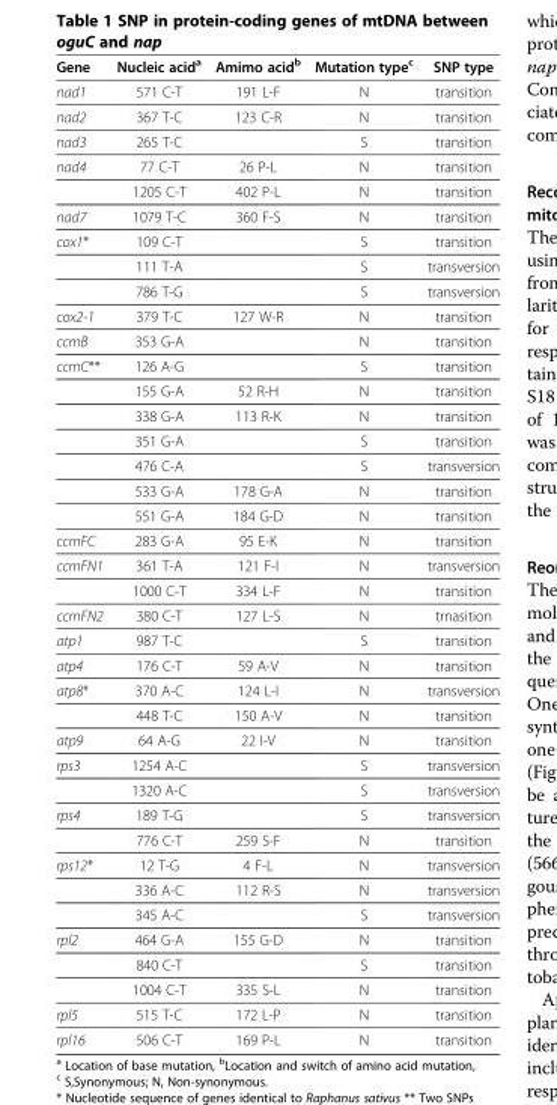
<table><thead><tr><td>Gene</td><td>Nucleic acid<sup>a</sup></td><td>Amimo acid<sup>b</sup></td><td>Mutation type<sup>c</sup></td><td>SNP type</td></tr></thead><tbody><tr><td>nad1</td><td>571 C-T</td><td>191 L-F</td><td>N</td><td>transition</td></tr><tr><td>nad2</td><td>367 T-C</td><td>123 C-R</td><td>N</td><td>transition</td></tr><tr><td>nad3</td><td>265 T-C</td><td></td><td>S</td><td>transition</td></tr><tr><td rowspan="2">nad4</td><td>77 C-T</td><td>26 P-L</td><td>N</td><td>transition</td></tr><tr><td>1205 C-T</td><td>402 P-L</td><td>N</td><td>transition</td></tr><tr><td>nad7</td><td>1079 T-C</td><td>360 F-S</td><td>N</td><td>transition</td></tr><tr><td rowspan="3">cox1*</td><td>109 C-T</td><td></td><td>S</td><td>transition</td></tr><tr><td>111 T-A</td><td></td><td>S</td><td>transversion</td></tr><tr><td>786 T-G</td><td></td><td>S</td><td>transversion</td></tr><tr><td>cox2-1</td><td>379 T-C</td><td>127 W-R</td><td>N</td><td>transition</td></tr><tr><td>ccmB</td><td>353 G-A</td><td></td><td>N</td><td>transition</td></tr><tr><td rowspan="7">ccmC**</td><td>126 A-G</td><td></td><td>S</td><td>transition</td></tr><tr><td>155 G-A</td><td>52 R-H</td><td>N</td><td>transition</td></tr><tr><td>338 G-A</td><td>113 R-K</td><td>N</td><td>transition</td></tr><tr><td>351 G-A</td><td></td><td>S</td><td>transition</td></tr><tr><td>476 C-A</td><td></td><td>S</td><td>transversion</td></tr><tr><td>533 G-A</td><td>178 G-A</td><td>N</td><td>transition</td></tr><tr><td>551 G-A</td><td>184 G-D</td><td>N</td><td>transition</td></tr><tr><td>ccmFC</td><td>283 G-A</td><td>95 E-K</td><td>N</td><td>transition</td></tr><tr><td rowspan="2">ccmFN1</td><td>361 T-A</td><td>121 F-I</td><td>N</td><td>transversion</td></tr><tr><td>1000 C-T</td><td>334 L-F</td><td>N</td><td>transition</td></tr><tr><td>ccmFN2</td><td>380 C-T</td><td>127 L-S</td><td>N</td><td>trnasition</td></tr><tr><td>atp1</td><td>987 T-C</td><td></td><td>S</td><td>transition</td></tr><tr><td>atp4</td><td>176 C-T</td><td>59 A-V</td><td>N</td><td>transition</td></tr><tr><td rowspan="2">atp8*</td><td>370 A-C</td><td>124 L-I</td><td>N</td><td>transversion</td></tr><tr><td>448 T-C</td><td>150 A-V</td><td>N</td><td>transition</td></tr><tr><td>atp9</td><td>64 A-G</td><td>22 I-V</td><td>N</td><td>transition</td></tr><tr><td rowspan="2">rps3</td><td>1254 A-C</td><td></td><td>S</td><td>transversion</td></tr><tr><td>1320 A-C</td><td></td><td>S</td><td>transversion</td></tr><tr><td rowspan="2">rps4</td><td>189 T-G</td><td></td><td>S</td><td>transversion</td></tr><tr><td>776 C-T</td><td>259 S-F</td><td>N</td><td>transition</td></tr><tr><td rowspan="3">rps12*</td><td>12 T-G</td><td>4 F-L</td><td>N</td><td>transversion</td></tr><tr><td>336 A-C</td><td>112 R-S</td><td>N</td><td>transversion</td></tr><tr><td>345 A-C</td><td></td><td>S</td><td>transversion</td></tr><tr><td rowspan="3">rpl2</td><td>464 G-A</td><td>155 G-D</td><td>N</td><td>transition</td></tr><tr><td>840 C-T</td><td></td><td>S</td><td>transition</td></tr><tr><td>1004 C-T</td><td>335 S-L</td><td>N</td><td>transition</td></tr><tr><td>rpl5</td><td>515 T-C</td><td>172 L-P</td><td>N</td><td>transition</td></tr><tr><td>rpl16</td><td>506 C-T</td><td>169 P-L</td><td>N</td><td>transition</td></tr></tbody></table>